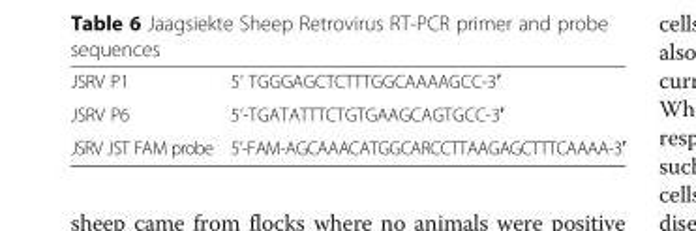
<table><tbody><tr><td>JSRV P1</td><td>5’ TGGGAGCTCTTTGGCAAAAGCC-3′</td></tr><tr><td>JSRV P6</td><td>5’-TGATATTTCTGTGAAGCAGTGCC-3′</td></tr><tr><td>JSRV JST FAM probe</td><td>5’-FAM-AGCAAACATGGCARCCTTAAGAGCTTTCAAAA-3′</td></tr></tbody></table>